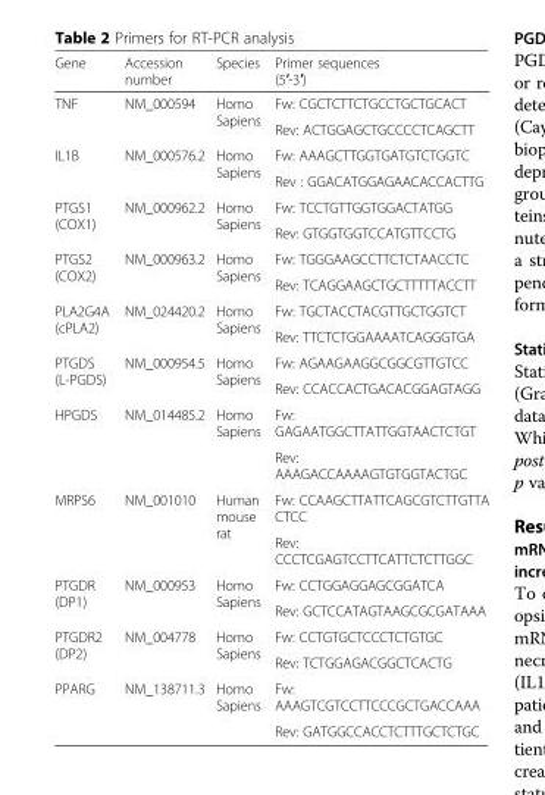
<table><thead><tr><td>Gene</td><td>Accession number</td><td>Species</td><td>Primer sequences (5′-3′)</td></tr></thead><tbody><tr><td rowspan="2">TNF</td><td rowspan="2">NM_000594</td><td rowspan="2">Homo Sapiens</td><td>Fw: CGCTCTTCTGCCTGCTGCACT</td></tr><tr><td>Rev: ACTGGAGCTGCCCCTCAGCTT</td></tr><tr><td rowspan="2">IL1B</td><td rowspan="2">NM_000576.2</td><td rowspan="2">Homo Sapiens</td><td>Fw: AAAGCTTGGTGATGTCTGGTC</td></tr><tr><td>Rev : GGACATGGAGAACACCACTTG</td></tr><tr><td rowspan="2">PTGS1 (COX1)</td><td rowspan="2">NM_000962.2</td><td rowspan="2">Homo Sapiens</td><td>Fw: TCCTGTTGGTGGACTATGG</td></tr><tr><td>Rev: GTGGTGGTCCATGTTCCTG</td></tr><tr><td rowspan="2">PTGS2 (COX2)</td><td rowspan="2">NM_000963.2</td><td rowspan="2">Homo Sapiens</td><td>Fw: TGGGAAGCCTTCTCTAACCTC</td></tr><tr><td>Rev: TCAGGAAGCTGCTTTTTACCTT</td></tr><tr><td rowspan="2">PLA2G4A (cPLA2)</td><td rowspan="2">NM_024420.2</td><td rowspan="2">Homo Sapiens</td><td>Fw: TGCTACCTACGTTGCTGGTCT</td></tr><tr><td>Rev: TTCTCTGGAAAATCAGGGTGA</td></tr><tr><td rowspan="2">PTGDS (L-PGDS)</td><td rowspan="2">NM_000954.5</td><td rowspan="2">Homo Sapiens</td><td>Fw: AGAAGAAGGCGGCGTTGTCC</td></tr><tr><td>Rev: CCACCACTGACACGGAGTAGG</td></tr><tr><td rowspan="2">HPGDS</td><td rowspan="2">NM_014485.2</td><td rowspan="2">Homo Sapiens</td><td>Fw: GAGAATGGCTTATTGGTAACTCTGT</td></tr><tr><td>Rev: AAAGACCAAAAGTGTGGTACTGC</td></tr><tr><td rowspan="2">MRPS6</td><td rowspan="2">NM_001010</td><td rowspan="2">Human mouse rat</td><td>Fw: CCAAGCTTATTCAGCGTCTTGTTA CTCC</td></tr><tr><td>Rev: CCCTCGAGTCCTTCATTCTCTTGGC</td></tr><tr><td rowspan="2">PTGDR (DP1)</td><td rowspan="2">NM_000953</td><td rowspan="2">Homo Sapiens</td><td>Fw: CCTGGAGGAGCGGATCA</td></tr><tr><td>Rev: GCTCCATAGTAAGCGCGATAAA</td></tr><tr><td rowspan="2">PTGDR2 (DP2)</td><td rowspan="2">NM_004778</td><td rowspan="2">Homo Sapiens</td><td>Fw: CCTGTGCTCCCTCTGTGC</td></tr><tr><td>Rev: TCTGGAGACGGCTCACTG</td></tr><tr><td rowspan="2">PPARG</td><td rowspan="2">NM_138711.3</td><td rowspan="2">Homo Sapiens</td><td>Fw: AAAGTCGTCCTTCCCGCTGACCAAA</td></tr><tr><td>Rev: GATGGCCACCTCTTTGCTCTGC</td></tr></tbody></table>